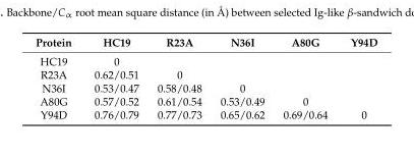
<table><thead><tr><td>Protein</td><td>HC19</td><td>R23A</td><td>N36I</td><td>A80G</td><td>Y94D</td></tr></thead><tbody><tr><td>HC19</td><td>0</td><td></td><td></td><td></td><td></td></tr><tr><td>R23A</td><td>0.62/0.51</td><td>0</td><td></td><td></td><td></td></tr><tr><td>N36I</td><td>0.53/0.47</td><td>0.58/0.48</td><td>0</td><td></td><td></td></tr><tr><td>A80G</td><td>0.57/0.52</td><td>0.61/0.54</td><td>0.53/0.49</td><td>0</td><td></td></tr><tr><td>Y94D</td><td>0.76/0.79</td><td>0.77/0.73</td><td>0.65/0.62</td><td>0.69/0.64</td><td>0</td></tr></tbody></table>